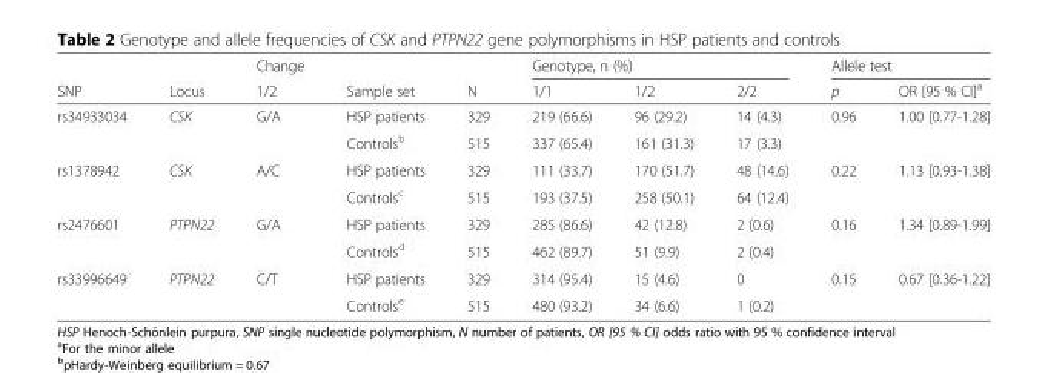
<table><thead><tr><td rowspan="2">SNP</td><td rowspan="2">Locus</td><td rowspan="2">Change 1/2</td><td rowspan="2">Sample set</td><td rowspan="2">N</td><td colspan="3">Genotype, n (%)</td><td colspan="2">Allele test</td></tr><tr><td>1/1</td><td>1/2</td><td>2/2</td><td>p</td><td>OR [95 % CI]<sup>a</sup></td></tr></thead><tbody><tr><td rowspan="2">rs34933034</td><td>CSK</td><td>G/A</td><td>HSP patients</td><td>329</td><td>219 (66.6)</td><td>96 (29.2)</td><td>14 (4.3)</td><td>0.96</td><td>1.00 [0.77-1.28]</td></tr><tr><td></td><td></td><td>Controls<sup>b</sup></td><td>515</td><td>337 (65.4)</td><td>161 (31.3)</td><td>17 (3.3)</td><td></td><td></td></tr><tr><td rowspan="2">rs1378942</td><td>CSK</td><td>A/C</td><td>HSP patients</td><td>329</td><td>111 (33.7)</td><td>170 (51.7)</td><td>48 (14.6)</td><td>0.22</td><td>1.13 [0.93-1.38]</td></tr><tr><td></td><td></td><td>Controls<sup>c</sup></td><td>515</td><td>193 (37.5)</td><td>258 (50.1)</td><td>64 (12.4)</td><td></td><td></td></tr><tr><td rowspan="2">rs2476601</td><td>PTPN22</td><td>G/A</td><td>HSP patients</td><td>329</td><td>285 (86.6)</td><td>42 (12.8)</td><td>2 (0.6)</td><td>0.16</td><td>1.34 [0.89-1.99]</td></tr><tr><td></td><td></td><td>Controls<sup>d</sup></td><td>515</td><td>462 (89.7)</td><td>51 (9.9)</td><td>2 (0.4)</td><td></td><td></td></tr><tr><td rowspan="2">rs33996649</td><td>PTPN22</td><td>C/T</td><td>HSP patients</td><td>329</td><td>314 (95.4)</td><td>15 (4.6)</td><td>0</td><td>0.15</td><td>0.67 [0.36-1.22]</td></tr><tr><td></td><td></td><td>Controls<sup>e</sup></td><td>515</td><td>480 (93.2)</td><td>34 (6.6)</td><td>1 (0.2)</td><td></td><td></td></tr></tbody></table>